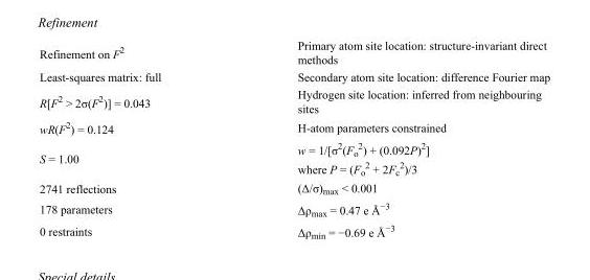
<table><tbody><tr><td>Refinement on F<sup>2</sup></td><td>Primary atom site location: structure-invariant direct methods</td></tr><tr><td>Least-squares matrix: full</td><td>Secondary atom site location: difference Fourier map</td></tr><tr><td>R[F<sup>2</sup> &gt; 2σ(F<sup>2</sup>)] = 0.043</td><td>Hydrogen site location: inferred from neighbouring sites</td></tr><tr><td>wR(F<sup>2</sup>) = 0.124</td><td>H-atom parameters constrained</td></tr><tr><td>S = 1.00</td><td>w = 1/[σ<sup>2</sup>(F<sub>o</sub> <sup>2</sup>) + (0.092P)<sup>2</sup>] where P = (F<sub>o</sub> <sup>2</sup> + 2F<sub>c</sub> <sup>2</sup>)/3</td></tr><tr><td>2741 reflections</td><td>(Δ/σ)<sub>max</sub> &lt; 0.001</td></tr><tr><td>178 parameters</td><td>Δρ<sub>max</sub> = 0.47 e Å<sup>−3</sup></td></tr><tr><td>0 restraints</td><td>Δρmin = −0.69 e Å−3</td></tr></tbody></table>